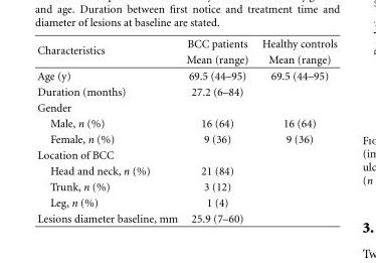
<table><thead><tr><td rowspan="2">Characteristics</td><td rowspan="2">BCC patients Mean (range)</td><td rowspan="2">Healthy controls Mean (range)</td></tr><tr></tr></thead><tbody><tr><td>Age (y)</td><td>69.5 (44–95)</td><td>69.5 (44–95)</td></tr><tr><td>Duration (months)</td><td>27.2 (6–84)</td><td></td></tr><tr><td colspan="3">Gender</td></tr><tr><td>Male, n (%)</td><td>16 (64)</td><td>16 (64)</td></tr><tr><td>Female, n (%)</td><td>9 (36)</td><td>9 (36)</td></tr><tr><td colspan="3">Location of BCC</td></tr><tr><td>Head and neck, n (%)</td><td>21 (84)</td><td></td></tr><tr><td>Trunk, n (%)</td><td>3 (12)</td><td></td></tr><tr><td>Leg, n (%)</td><td>1 (4)</td><td></td></tr><tr><td>Lesions diameter baseline, mm</td><td>25.9 (7–60)</td><td></td></tr></tbody></table>